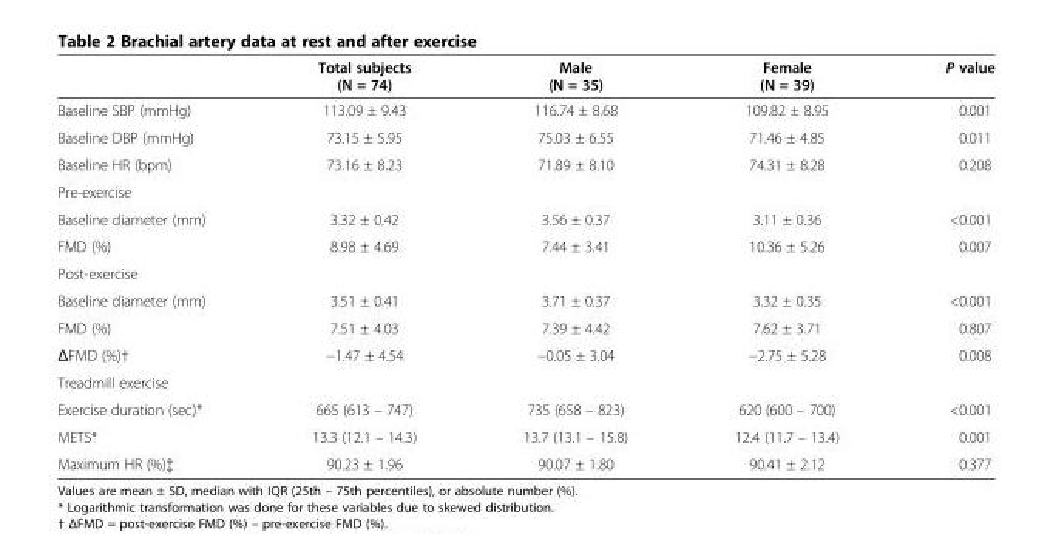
<table><thead><tr><td></td><td>Total subjects (N = 74)</td><td>Male (N = 35)</td><td>Female (N = 39)</td><td>P value</td></tr></thead><tbody><tr><td>Baseline SBP (mmHg)</td><td>113.09 ± 9.43</td><td>116.74 ± 8.68</td><td>109.82 ± 8.95</td><td>0.001</td></tr><tr><td>Baseline DBP (mmHg)</td><td>73.15 ± 5.95</td><td>75.03 ± 6.55</td><td>71.46 ± 4.85</td><td>0.011</td></tr><tr><td>Baseline HR (bpm)</td><td>73.16 ± 8.23</td><td>71.89 ± 8.10</td><td>74.31 ± 8.28</td><td>0.208</td></tr><tr><td colspan="5">Pre-exercise</td></tr><tr><td>Baseline diameter (mm)</td><td>3.32 ± 0.42</td><td>3.56 ± 0.37</td><td>3.11 ± 0.36</td><td>&lt;0.001</td></tr><tr><td>FMD (%)</td><td>8.98 ± 4.69</td><td>7.44 ± 3.41</td><td>10.36 ± 5.26</td><td>0.007</td></tr><tr><td colspan="5">Post-exercise</td></tr><tr><td>Baseline diameter (mm)</td><td>3.51 ± 0.41</td><td>3.71 ± 0.37</td><td>3.32 ± 0.35</td><td>&lt;0.001</td></tr><tr><td>FMD (%)</td><td>7.51 ± 4.03</td><td>7.39 ± 4.42</td><td>7.62 ± 3.71</td><td>0.807</td></tr><tr><td>ΔFMD (%)†</td><td>−1.47 ± 4.54</td><td>−0.05 ± 3.04</td><td>−2.75 ± 5.28</td><td>0.008</td></tr><tr><td colspan="5">Treadmill exercise</td></tr><tr><td>Exercise duration (sec)*</td><td>665 (613 – 747)</td><td>735 (658 – 823)</td><td>620 (600 – 700)</td><td>&lt;0.001</td></tr><tr><td>METS*</td><td>13.3 (12.1 – 14.3)</td><td>13.7 (13.1 – 15.8)</td><td>12.4 (11.7 – 13.4)</td><td>0.001</td></tr><tr><td>Maximum HR (%)‡</td><td>90.23 ± 1.96</td><td>90.07 ± 1.80</td><td>90.41 ± 2.12</td><td>0.377</td></tr></tbody></table>